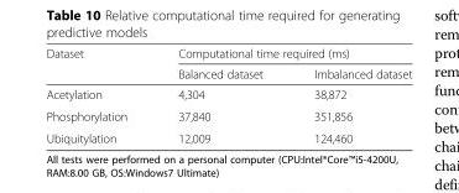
<table><thead><tr><td rowspan="2">Dataset</td><td colspan="2">Computational time required (ms)</td></tr><tr><td>Balanced dataset</td><td>Imbalanced dataset</td></tr></thead><tbody><tr><td>Acetylation</td><td>4,304</td><td>38,872</td></tr><tr><td>Phosphorylation</td><td>37,840</td><td>351,856</td></tr><tr><td>Ubiquitylation</td><td>12,009</td><td>124,460</td></tr></tbody></table>